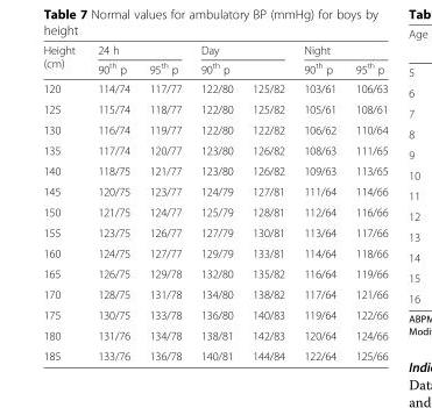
<table><thead><tr><td rowspan="2">Height (cm)</td><td colspan="2">24 h</td><td colspan="2">Day</td><td colspan="2">Night</td></tr><tr><td>90<sup>th</sup> p</td><td>95<sup>th</sup> p</td><td>90<sup>th</sup> p</td><td></td><td>90<sup>th</sup> p</td><td>95<sup>th</sup> p</td></tr></thead><tbody><tr><td>120</td><td>114/74</td><td>117/77</td><td>122/80</td><td>125/82</td><td>103/61</td><td>106/63</td></tr><tr><td>125</td><td>115/74</td><td>118/77</td><td>122/80</td><td>125/82</td><td>105/61</td><td>108/61</td></tr><tr><td>130</td><td>116/74</td><td>119/77</td><td>122/80</td><td>122/82</td><td>106/62</td><td>110/64</td></tr><tr><td>135</td><td>117/74</td><td>120/77</td><td>123/80</td><td>126/82</td><td>108/63</td><td>111/65</td></tr><tr><td>140</td><td>118/75</td><td>121/77</td><td>123/80</td><td>126/82</td><td>109/63</td><td>113/65</td></tr><tr><td>145</td><td>120/75</td><td>123/77</td><td>124/79</td><td>127/81</td><td>111/64</td><td>114/66</td></tr><tr><td>150</td><td>121/75</td><td>124/77</td><td>125/79</td><td>128/81</td><td>112/64</td><td>116/66</td></tr><tr><td>155</td><td>123/75</td><td>126/77</td><td>127/79</td><td>130/81</td><td>113/64</td><td>117/66</td></tr><tr><td>160</td><td>124/75</td><td>127/77</td><td>129/79</td><td>133/81</td><td>114/64</td><td>118/66</td></tr><tr><td>165</td><td>126/75</td><td>129/78</td><td>132/80</td><td>135/82</td><td>116/64</td><td>119/66</td></tr><tr><td>170</td><td>128/75</td><td>131/78</td><td>134/80</td><td>138/82</td><td>117/64</td><td>121/66</td></tr><tr><td>175</td><td>130/75</td><td>133/78</td><td>136/80</td><td>140/83</td><td>119/64</td><td>122/66</td></tr><tr><td>180</td><td>131/76</td><td>134/78</td><td>138/81</td><td>142/83</td><td>120/64</td><td>124/66</td></tr><tr><td>185</td><td>133/76</td><td>136/78</td><td>140/81</td><td>144/84</td><td>122/64</td><td>125/66</td></tr></tbody></table>